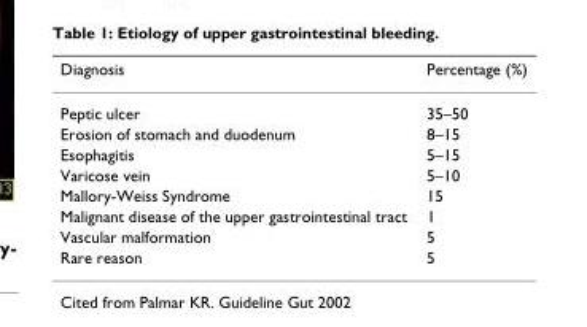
<table><thead><tr><td>Diagnosis</td><td>Percentage (%)</td></tr></thead><tbody><tr><td>Peptic ulcer</td><td>35–50</td></tr><tr><td>Erosion of stomach and duodenum</td><td>8–15</td></tr><tr><td>Esophagitis</td><td>5–15</td></tr><tr><td>Varicose vein</td><td>5–10</td></tr><tr><td>Mallory-Weiss Syndrome</td><td>15</td></tr><tr><td>Malignant disease of the upper gastrointestinal tract</td><td>1</td></tr><tr><td>Vascular malformation</td><td>5</td></tr><tr><td>Rare reason</td><td>5</td></tr></tbody></table>